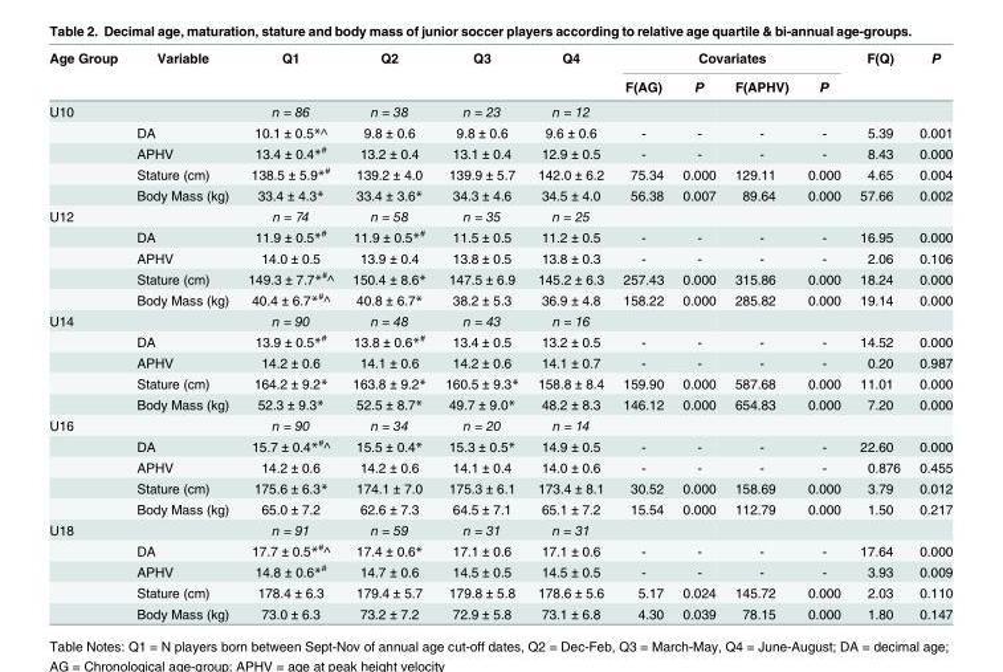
<table><thead><tr><td rowspan="2">Age Group</td><td rowspan="2">Variable</td><td rowspan="2">Q1</td><td rowspan="2">Q2</td><td rowspan="2">Q3</td><td rowspan="2">Q4</td><td colspan="4">Covariates</td><td rowspan="2">F(Q)</td><td rowspan="2">P</td></tr><tr><td>F(AG)</td><td>P</td><td>F(APHV)</td><td>P</td></tr></thead><tbody><tr><td rowspan="5">U10</td><td></td><td>n = 86</td><td>n = 38</td><td>n = 23</td><td>n = 12</td><td></td><td></td><td></td><td></td><td></td><td></td></tr><tr><td>DA</td><td>10.1 ± 0.5*^</td><td>9.8 ± 0.6</td><td>9.8 ± 0.6</td><td>9.6 ± 0.6</td><td>-</td><td>-</td><td>-</td><td>-</td><td>5.39</td><td>0.001</td></tr><tr><td>APHV</td><td>13.4 ± 0.4*<sup>#</sup></td><td>13.2 ± 0.4</td><td>13.1 ± 0.4</td><td>12.9 ± 0.5</td><td>-</td><td>-</td><td>-</td><td>-</td><td>8.43</td><td>0.000</td></tr><tr><td>Stature (cm)</td><td>138.5 ± 5.9*<sup>#</sup></td><td>139.2 ± 4.0</td><td>139.9 ± 5.7</td><td>142.0 ± 6.2</td><td>75.34</td><td>0.000</td><td>129.11</td><td>0.000</td><td>4.65</td><td>0.004</td></tr><tr><td>Body Mass (kg)</td><td>33.4 ± 4.3*</td><td>33.4 ± 3.6*</td><td>34.3 ± 4.6</td><td>34.5 ± 4.0</td><td>56.38</td><td>0.007</td><td>89.64</td><td>0.000</td><td>57.66</td><td>0.002</td></tr><tr><td rowspan="5">U12</td><td></td><td>n = 74</td><td>n = 58</td><td>n = 35</td><td>n = 25</td><td></td><td></td><td></td><td></td><td></td><td></td></tr><tr><td>DA</td><td>11.9 ± 0.5*<sup>#</sup></td><td>11.9 ± 0.5*<sup>#</sup></td><td>11.5 ± 0.5</td><td>11.2 ± 0.5</td><td>-</td><td>-</td><td>-</td><td>-</td><td>16.95</td><td>0.000</td></tr><tr><td>APHV</td><td>14.0 ± 0.5</td><td>13.9 ± 0.4</td><td>13.8 ± 0.5</td><td>13.8 ± 0.3</td><td>-</td><td>-</td><td>-</td><td>-</td><td>2.06</td><td>0.106</td></tr><tr><td>Stature (cm)</td><td>149.3 ± 7.7*#^</td><td>150.4 ± 8.6*</td><td>147.5 ± 6.9</td><td>145.2 ± 6.3</td><td>257.43</td><td>0.000</td><td>315.86</td><td>0.000</td><td>18.24</td><td>0.000</td></tr><tr><td>Body Mass (kg)</td><td>40.4 ± 6.7*#^</td><td>40.8 ± 6.7*</td><td>38.2 ± 5.3</td><td>36.9 ± 4.8</td><td>158.22</td><td>0.000</td><td>285.82</td><td>0.000</td><td>19.14</td><td>0.000</td></tr><tr><td rowspan="5">U14</td><td></td><td>n = 90</td><td>n = 48</td><td>n = 43</td><td>n = 16</td><td></td><td></td><td></td><td></td><td></td><td></td></tr><tr><td>DA</td><td>13.9 ± 0.5*<sup>#</sup></td><td>13.8 ± 0.6*<sup>#</sup></td><td>13.4 ± 0.5</td><td>13.2 ± 0.5</td><td>-</td><td>-</td><td>-</td><td>-</td><td>14.52</td><td>0.000</td></tr><tr><td>APHV</td><td>14.2 ± 0.6</td><td>14.1 ± 0.6</td><td>14.2 ± 0.6</td><td>14.1 ± 0.7</td><td>-</td><td>-</td><td>-</td><td>-</td><td>0.20</td><td>0.987</td></tr><tr><td>Stature (cm)</td><td>164.2 ± 9.2*</td><td>163.8 ± 9.2*</td><td>160.5 ± 9.3*</td><td>158.8 ± 8.4</td><td>159.90</td><td>0.000</td><td>587.68</td><td>0.000</td><td>11.01</td><td>0.000</td></tr><tr><td>Body Mass (kg)</td><td>52.3 ± 9.3*</td><td>52.5 ± 8.7*</td><td>49.7 ± 9.0*</td><td>48.2 ± 8.3</td><td>146.12</td><td>0.000</td><td>654.83</td><td>0.000</td><td>7.20</td><td>0.000</td></tr><tr><td rowspan="5">U16</td><td></td><td>n = 90</td><td>n = 34</td><td>n = 20</td><td>n = 14</td><td></td><td></td><td></td><td></td><td></td><td></td></tr><tr><td>DA</td><td>15.7 ± 0.4*#^</td><td>15.5 ± 0.4*</td><td>15.3 ± 0.5*</td><td>14.9 ± 0.5</td><td>-</td><td>-</td><td>-</td><td>-</td><td>22.60</td><td>0.000</td></tr><tr><td>APHV</td><td>14.2 ± 0.6</td><td>14.2 ± 0.6</td><td>14.1 ± 0.4</td><td>14.0 ± 0.6</td><td>-</td><td>-</td><td>-</td><td>-</td><td>0.876</td><td>0.455</td></tr><tr><td>Stature (cm)</td><td>175.6 ± 6.3*</td><td>174.1 ± 7.0</td><td>175.3 ± 6.1</td><td>173.4 ± 8.1</td><td>30.52</td><td>0.000</td><td>158.69</td><td>0.000</td><td>3.79</td><td>0.012</td></tr><tr><td>Body Mass (kg)</td><td>65.0 ± 7.2</td><td>62.6 ± 7.3</td><td>64.5 ± 7.1</td><td>65.1 ± 7.2</td><td>15.54</td><td>0.000</td><td>112.79</td><td>0.000</td><td>1.50</td><td>0.217</td></tr><tr><td rowspan="5">U18</td><td></td><td>n = 91</td><td>n = 59</td><td>n = 31</td><td>n = 31</td><td></td><td></td><td></td><td></td><td></td><td></td></tr><tr><td>DA</td><td>17.7 ± 0.5*#^</td><td>17.4 ± 0.6*</td><td>17.1 ± 0.6</td><td>17.1 ± 0.6</td><td>-</td><td>-</td><td>-</td><td>-</td><td>17.64</td><td>0.000</td></tr><tr><td>APHV</td><td>14.8 ± 0.6*<sup>#</sup></td><td>14.7 ± 0.6</td><td>14.5 ± 0.5</td><td>14.5 ± 0.5</td><td>-</td><td>-</td><td>-</td><td>-</td><td>3.93</td><td>0.009</td></tr><tr><td>Stature (cm)</td><td>178.4 ± 6.3</td><td>179.4 ± 5.7</td><td>179.8 ± 5.8</td><td>178.6 ± 5.6</td><td>5.17</td><td>0.024</td><td>145.72</td><td>0.000</td><td>2.03</td><td>0.110</td></tr><tr><td>Body Mass (kg)</td><td>73.0 ± 6.3</td><td>73.2 ± 7.2</td><td>72.9 ± 5.8</td><td>73.1 ± 6.8</td><td>4.30</td><td>0.039</td><td>78.15</td><td>0.000</td><td>1.80</td><td>0.147</td></tr></tbody></table>